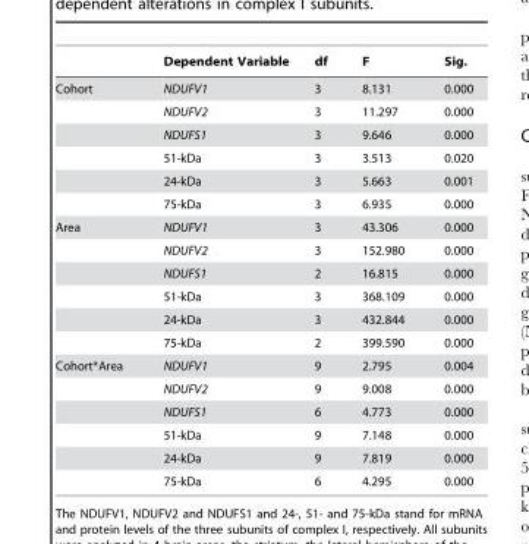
<table><thead><tr><td></td><td>Dependent Variable</td><td>df</td><td>F</td><td>Sig.</td></tr></thead><tbody><tr><td rowspan="6">Cohort</td><td>NDUFV1</td><td>3</td><td>8.131</td><td>0.000</td></tr><tr><td>NDUFV2</td><td>3</td><td>11.297</td><td>0.000</td></tr><tr><td>NDUFS1</td><td>3</td><td>9.646</td><td>0.000</td></tr><tr><td>51-kDa</td><td>3</td><td>3.513</td><td>0.020</td></tr><tr><td>24-kDa</td><td>3</td><td>5.663</td><td>0.001</td></tr><tr><td>75-kDa</td><td>3</td><td>6.935</td><td>0.000</td></tr><tr><td rowspan="6">Area</td><td>NDUFV1</td><td>3</td><td>43.306</td><td>0.000</td></tr><tr><td>NDUFV2</td><td>3</td><td>152.980</td><td>0.000</td></tr><tr><td>NDUFS1</td><td>2</td><td>16.815</td><td>0.000</td></tr><tr><td>51-kDa</td><td>3</td><td>368.109</td><td>0.000</td></tr><tr><td>24-kDa</td><td>3</td><td>432.844</td><td>0.000</td></tr><tr><td>75-kDa</td><td>2</td><td>399.590</td><td>0.000</td></tr><tr><td rowspan="6">Cohort*Area</td><td>NDUFV1</td><td>9</td><td>2.795</td><td>0.004</td></tr><tr><td>NDUFV2</td><td>9</td><td>9.008</td><td>0.000</td></tr><tr><td>NDUFS1</td><td>6</td><td>4.773</td><td>0.000</td></tr><tr><td>51-kDa</td><td>9</td><td>7.148</td><td>0.000</td></tr><tr><td>24-kDa</td><td>9</td><td>7.819</td><td>0.000</td></tr><tr><td>75-kDa</td><td>6</td><td>4.295</td><td>0.000</td></tr></tbody></table>